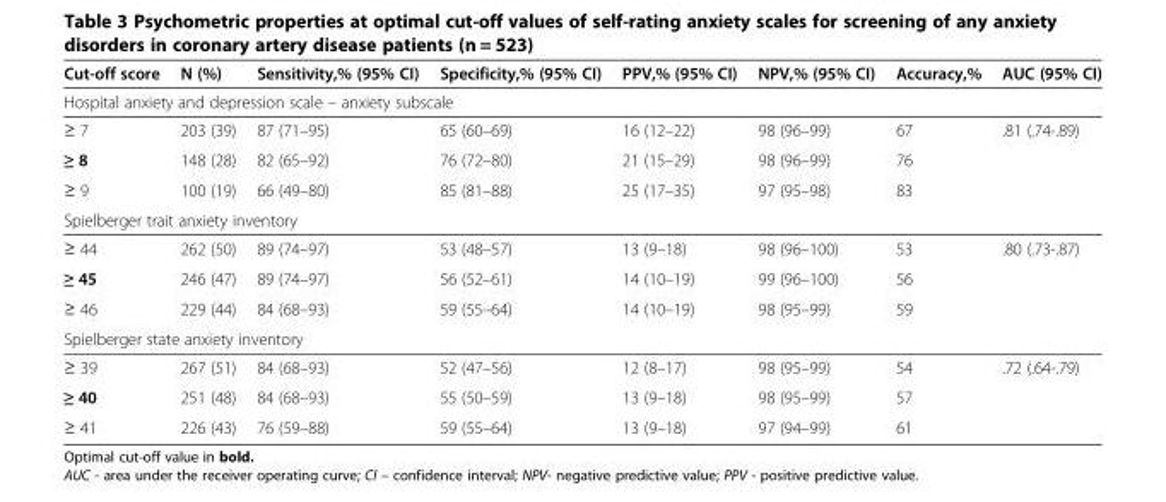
<table><thead><tr><td>Cut-off score</td><td>N (%)</td><td>Sensitivity,% (95% CI)</td><td>Specificity,% (95% CI)</td><td>PPV,% (95% CI)</td><td>NPV,% (95% CI)</td><td>Accuracy,%</td><td>AUC (95% CI)</td></tr></thead><tbody><tr><td colspan="8">Hospital anxiety and depression scale – anxiety subscale</td></tr><tr><td>≥ 7</td><td>203 (39)</td><td>87 (71–95)</td><td>65 (60–69)</td><td>16 (12–22)</td><td>98 (96–99)</td><td>67</td><td rowspan="3">.81 (.74-.89)</td></tr><tr><td>≥ 8</td><td>148 (28)</td><td>82 (65–92)</td><td>76 (72–80)</td><td>21 (15–29)</td><td>98 (96–99)</td><td>76</td></tr><tr><td>≥ 9</td><td>100 (19)</td><td>66 (49–80)</td><td>85 (81–88)</td><td>25 (17–35)</td><td>97 (95–98)</td><td>83</td></tr><tr><td colspan="8">Spielberger trait anxiety inventory</td></tr><tr><td>≥ 44</td><td>262 (50)</td><td>89 (74–97)</td><td>53 (48–57)</td><td>13 (9–18)</td><td>98 (96–100)</td><td>53</td><td rowspan="3">.80 (.73-.87)</td></tr><tr><td>≥ 45</td><td>246 (47)</td><td>89 (74–97)</td><td>56 (52–61)</td><td>14 (10–19)</td><td>99 (96–100)</td><td>56</td></tr><tr><td>≥ 46</td><td>229 (44)</td><td>84 (68–93)</td><td>59 (55–64)</td><td>14 (10–19)</td><td>98 (95–99)</td><td>59</td></tr><tr><td colspan="8">Spielberger state anxiety inventory</td></tr><tr><td>≥ 39</td><td>267 (51)</td><td>84 (68–93)</td><td>52 (47–56)</td><td>12 (8–17)</td><td>98 (95–99)</td><td>54</td><td rowspan="2">.72 (.64-.79)</td></tr><tr><td>≥ 40</td><td>251 (48)</td><td>84 (68–93)</td><td>55 (50–59)</td><td>13 (9–18)</td><td>98 (95–99)</td><td>57</td></tr><tr><td>≥ 41</td><td>226 (43)</td><td>76 (59–88)</td><td>59 (55–64)</td><td>13 (9–18)</td><td>97 (94–99)</td><td>61</td><td></td></tr></tbody></table>